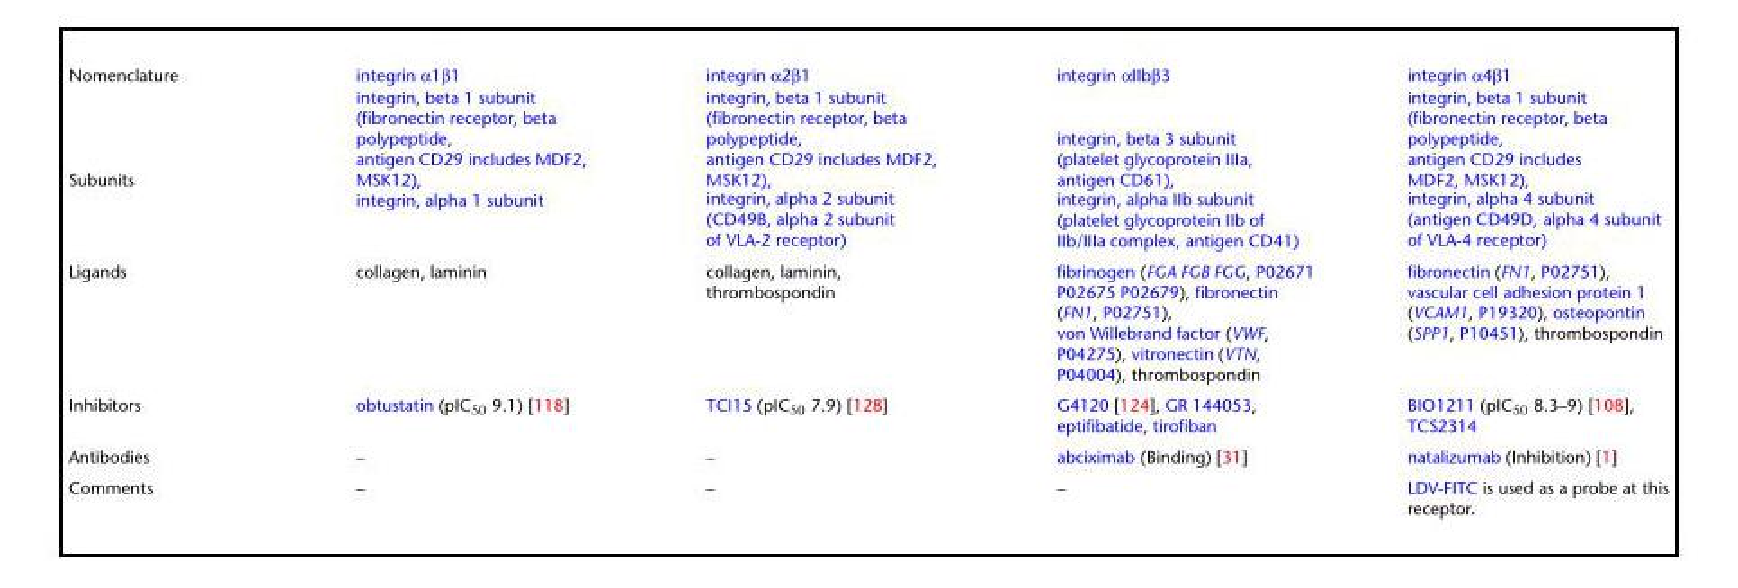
<table><tbody><tr><td>Nomenclature</td><td>integrin α1β1</td><td>integrin α2β1</td><td>integrin αIIbβ3</td><td>integrin α4β1</td></tr><tr><td>Subunits</td><td>integrin, beta 1 subunit (fibronectin receptor, beta polypeptide, antigen CD29 includes MDF2, MSK12), integrin, alpha 1 subunit</td><td>integrin, beta 1 subunit (fibronectin receptor, beta polypeptide, antigen CD29 includes MDF2, MSK12), integrin, alpha 2 subunit (CD49B, alpha 2 subunit of VLA-2 receptor)</td><td>integrin, beta 3 subunit (platelet glycoprotein IIIa, antigen CD61), integrin, alpha IIb subunit (platelet glycoprotein IIb of IIb/IIIa complex, antigen CD41)</td><td>integrin, beta 1 subunit (fibronectin receptor, beta polypeptide, antigen CD29 includes MDF2, MSK12), integrin, alpha 4 subunit (antigen CD49D, alpha 4 subunit of VLA-4 receptor)</td></tr><tr><td>Ligands</td><td>collagen, laminin</td><td>collagen, laminin, thrombospondin</td><td>fibrinogen (FGA FGB FGG, P02671 P02675 P02679), fibronectin (FN1, P02751), von Willebrand factor (VWF, P04275), vitronectin (VTN, P04004), thrombospondin</td><td>fibronectin (FN1, P02751), vascular cell adhesion protein 1 (VCAM1, P19320), osteopontin (SPP1, P10451), thrombospondin</td></tr><tr><td>Inhibitors</td><td>obtustatin (pIC<sub>50</sub> 9.1) [118]</td><td>TCI15 (pIC<sub>50</sub> 7.9) [128]</td><td>G4120 [124], GR 144053, eptifibatide, tirofiban</td><td>BIO1211 (pIC<sub>50</sub> 8.3–9) [108], TCS2314</td></tr><tr><td>Antibodies</td><td>–</td><td>–</td><td>abciximab (Binding) [31]</td><td>natalizumab (Inhibition) [1]</td></tr><tr><td>Comments</td><td>–</td><td>–</td><td>–</td><td>LDV-FITC is used as a probe at this receptor.</td></tr></tbody></table>